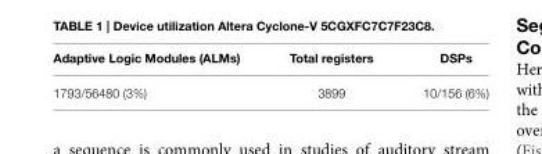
<table><thead><tr><td>Adaptive Logic Modules (ALMs)</td><td>Total registers</td><td>DSPs</td></tr></thead><tbody><tr><td>1793/56480 (3%)</td><td>3899</td><td>10/156 (6%)</td></tr></tbody></table>